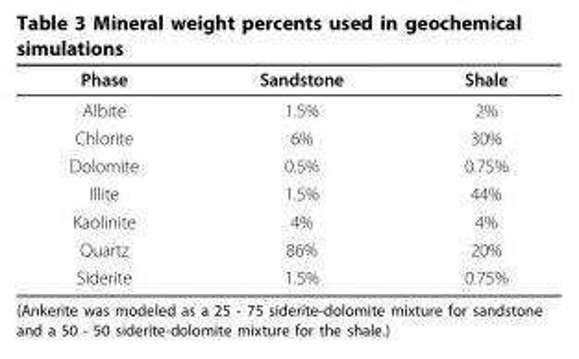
<table><thead><tr><td>Phase</td><td>Sandstone</td><td>Shale</td></tr></thead><tbody><tr><td>Albite</td><td>1.5%</td><td>2%</td></tr><tr><td>Chlorite</td><td>6%</td><td>30%</td></tr><tr><td>Dolomite</td><td>0.5%</td><td>0.75%</td></tr><tr><td>Illite</td><td>1.5%</td><td>44%</td></tr><tr><td>Kaolinite</td><td>4%</td><td>4%</td></tr><tr><td>Quartz</td><td>86%</td><td>20%</td></tr><tr><td>Siderite</td><td>1.5%</td><td>0.75%</td></tr></tbody></table>